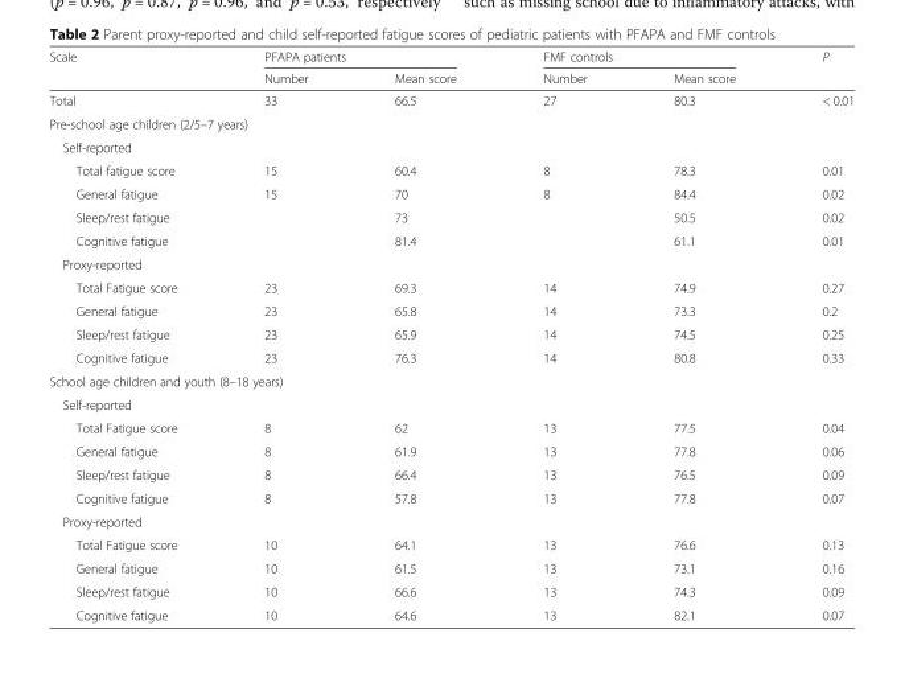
<table><thead><tr><td rowspan="2">Scale</td><td colspan="2">PFAPA patients</td><td colspan="2">FMF controls</td><td rowspan="2">P</td></tr><tr><td>Number</td><td>Mean score</td><td>Number</td><td>Mean score</td></tr></thead><tbody><tr><td>Total</td><td>33</td><td>66.5</td><td>27</td><td>80.3</td><td>&lt; 0.01</td></tr><tr><td colspan="6">Pre-school age children (2/5–7 years)</td></tr><tr><td colspan="6">Self-reported</td></tr><tr><td>Total fatigue score</td><td>15</td><td>60.4</td><td>8</td><td>78.3</td><td>0.01</td></tr><tr><td>General fatigue</td><td>15</td><td>70</td><td>8</td><td>84.4</td><td>0.02</td></tr><tr><td>Sleep/rest fatigue</td><td></td><td>73</td><td></td><td>50.5</td><td>0.02</td></tr><tr><td>Cognitive fatigue</td><td></td><td>81.4</td><td></td><td>61.1</td><td>0.01</td></tr><tr><td colspan="6">Proxy-reported</td></tr><tr><td>Total Fatigue score</td><td>23</td><td>69.3</td><td>14</td><td>74.9</td><td>0.27</td></tr><tr><td>General fatigue</td><td>23</td><td>65.8</td><td>14</td><td>73.3</td><td>0.2</td></tr><tr><td>Sleep/rest fatigue</td><td>23</td><td>65.9</td><td>14</td><td>74.5</td><td>0.25</td></tr><tr><td>Cognitive fatigue</td><td>23</td><td>76.3</td><td>14</td><td>80.8</td><td>0.33</td></tr><tr><td colspan="6">School age children and youth (8–18 years)</td></tr><tr><td colspan="6">Self-reported</td></tr><tr><td>Total Fatigue score</td><td>8</td><td>62</td><td>13</td><td>77.5</td><td>0.04</td></tr><tr><td>General fatigue</td><td>8</td><td>61.9</td><td>13</td><td>77.8</td><td>0.06</td></tr><tr><td>Sleep/rest fatigue</td><td>8</td><td>66.4</td><td>13</td><td>76.5</td><td>0.09</td></tr><tr><td>Cognitive fatigue</td><td>8</td><td>57.8</td><td>13</td><td>77.8</td><td>0.07</td></tr><tr><td colspan="6">Proxy-reported</td></tr><tr><td>Total Fatigue score</td><td>10</td><td>64.1</td><td>13</td><td>76.6</td><td>0.13</td></tr><tr><td>General fatigue</td><td>10</td><td>61.5</td><td>13</td><td>73.1</td><td>0.16</td></tr><tr><td>Sleep/rest fatigue</td><td>10</td><td>66.6</td><td>13</td><td>74.3</td><td>0.09</td></tr><tr><td>Cognitive fatigue</td><td>10</td><td>64.6</td><td>13</td><td>82.1</td><td>0.07</td></tr></tbody></table>